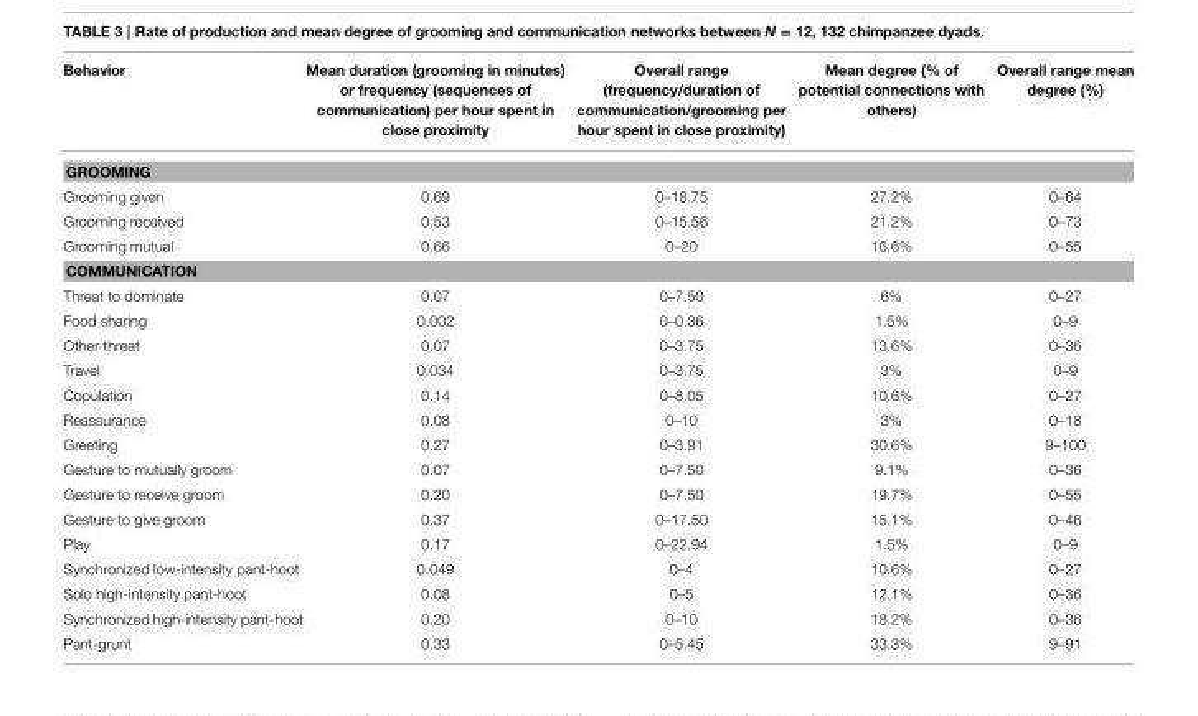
<table><thead><tr><td>Behavior</td><td>Mean duration (grooming in minutes) or frequency (sequences of communication) per hour spent in close proximity</td><td>Overall range (frequency/duration of communication/grooming per hour spent in close proximity)</td><td>Mean degree (% of potential connections with others)</td><td>Overall range mean degree (%)</td></tr></thead><tbody><tr><td colspan="5">GROOMING</td></tr><tr><td>Grooming given</td><td>0.69</td><td>0–18.75</td><td>27.2%</td><td>0–64</td></tr><tr><td>Grooming received</td><td>0.53</td><td>0–15.56</td><td>21.2%</td><td>0–73</td></tr><tr><td>Grooming mutual</td><td>0.66</td><td>0–20</td><td>16.6%</td><td>0–55</td></tr><tr><td colspan="5">COMMUNICATION</td></tr><tr><td>Threat to dominate</td><td>0.07</td><td>0–7.50</td><td>6%</td><td>0–27</td></tr><tr><td>Food sharing</td><td>0.002</td><td>0–0.36</td><td>1.5%</td><td>0–9</td></tr><tr><td>Other threat</td><td>0.07</td><td>0–3.75</td><td>13.6%</td><td>0–36</td></tr><tr><td>Travel</td><td>0.034</td><td>0–3.75</td><td>3%</td><td>0–9</td></tr><tr><td>Copulation</td><td>0.14</td><td>0–8.05</td><td>10.6%</td><td>0–27</td></tr><tr><td>Reassurance</td><td>0.08</td><td>0–10</td><td>3%</td><td>0–18</td></tr><tr><td>Greeting</td><td>0.27</td><td>0–3.91</td><td>30.6%</td><td>9–100</td></tr><tr><td>Gesture to mutually groom</td><td>0.07</td><td>0–7.50</td><td>9.1%</td><td>0–36</td></tr><tr><td>Gesture to receive groom</td><td>0.20</td><td>0–7.50</td><td>19.7%</td><td>0–55</td></tr><tr><td>Gesture to give groom</td><td>0.37</td><td>0–17.50</td><td>15.1%</td><td>0–46</td></tr><tr><td>Play</td><td>0.17</td><td>0–22.94</td><td>1.5%</td><td>0–9</td></tr><tr><td>Synchronized low-intensity pant-hoot</td><td>0.049</td><td>0–4</td><td>10.6%</td><td>0–27</td></tr><tr><td>Solo high-intensity pant-hoot</td><td>0.08</td><td>0–5</td><td>12.1%</td><td>0–36</td></tr><tr><td>Synchronized high-intensity pant-hoot</td><td>0.20</td><td>0–10</td><td>18.2%</td><td>0–36</td></tr><tr><td>Pant-grunt</td><td>0.33</td><td>0–5.45</td><td>33.3%</td><td>9–91</td></tr></tbody></table>